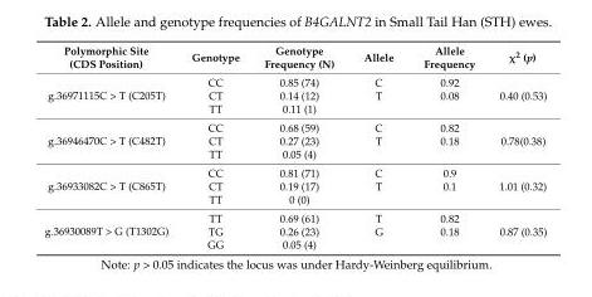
<table><thead><tr><td>Polymorphic Site (CDS Position)</td><td>Genotype</td><td>Genotype Frequency (N)</td><td>Allele</td><td>Allele Frequency</td><td>χ<sup>2</sup> (p)</td></tr></thead><tbody><tr><td rowspan="3">g.36971115C &gt; T (C205T)</td><td>CC</td><td>0.85 (74)</td><td>C</td><td>0.92</td><td rowspan="3">0.40 (0.53)</td></tr><tr><td>CT</td><td>0.14 (12)</td><td>T</td><td>0.08</td></tr><tr><td>TT</td><td>0.11 (1)</td><td></td><td></td></tr><tr><td rowspan="3">g.36946470C &gt; T (C482T)</td><td>CC</td><td>0.68 (59)</td><td>C</td><td>0.82</td><td rowspan="3">0.78(0.38)</td></tr><tr><td>CT</td><td>0.27 (23)</td><td>T</td><td>0.18</td></tr><tr><td>TT</td><td>0.05 (4)</td><td></td><td></td></tr><tr><td rowspan="3">g.36933082C &gt; T (C865T)</td><td>CC</td><td>0.81 (71)</td><td>C</td><td>0.9</td><td rowspan="3">1.01 (0.32)</td></tr><tr><td>CT</td><td>0.19 (17)</td><td>T</td><td>0.1</td></tr><tr><td>TT</td><td>0 (0)</td><td></td><td></td></tr><tr><td rowspan="3">g.36930089T &gt; G (T1302G)</td><td>TT</td><td>0.69 (61)</td><td>T</td><td>0.82</td><td rowspan="3">0.87 (0.35)</td></tr><tr><td>TG</td><td>0.26 (23)</td><td>G</td><td>0.18</td></tr><tr><td>GG</td><td>0.05 (4)</td><td></td><td></td></tr></tbody></table>